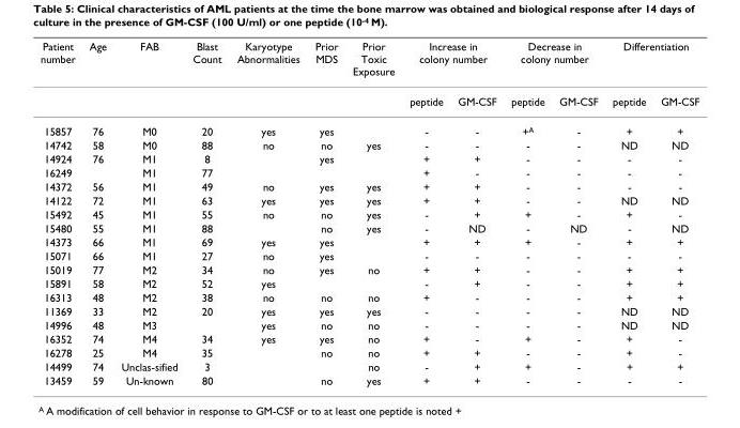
<table><thead><tr><td rowspan="2">Patient number</td><td rowspan="2">Age</td><td rowspan="2">FAB</td><td rowspan="2">Blast Count</td><td rowspan="2">Karyotype Abnormalities</td><td rowspan="2">Prior MDS</td><td rowspan="2">Prior Toxic Exposure</td><td colspan="2">Increase in colony number</td><td colspan="2">Decrease in colony number</td><td colspan="2">Differentiation</td></tr><tr><td>peptide</td><td>GM-CSF</td><td>peptide</td><td>GM-CSF</td><td>peptide</td><td>GM-CSF</td></tr></thead><tbody><tr><td>15857</td><td>76</td><td>M0</td><td>20</td><td>yes</td><td>yes</td><td></td><td>-</td><td>-</td><td>+<sup>A</sup></td><td>-</td><td>+</td><td>+</td></tr><tr><td>14742</td><td>58</td><td>M0</td><td>88</td><td>no</td><td>no</td><td>yes</td><td>-</td><td>-</td><td>-</td><td>-</td><td>ND</td><td>ND</td></tr><tr><td>14924</td><td>76</td><td>M1</td><td>8</td><td></td><td>yes</td><td></td><td>+</td><td>+</td><td>-</td><td>-</td><td>-</td><td>-</td></tr><tr><td>16249</td><td></td><td>M1</td><td>77</td><td></td><td></td><td></td><td>+</td><td>-</td><td>-</td><td>-</td><td>-</td><td>-</td></tr><tr><td>14372</td><td>56</td><td>M1</td><td>49</td><td>no</td><td>yes</td><td>yes</td><td>+</td><td>+</td><td>-</td><td>-</td><td>-</td><td>-</td></tr><tr><td>14122</td><td>72</td><td>M1</td><td>63</td><td>yes</td><td>yes</td><td>yes</td><td>+</td><td>+</td><td>-</td><td>-</td><td>ND</td><td>ND</td></tr><tr><td>15492</td><td>45</td><td>M1</td><td>55</td><td>no</td><td>no</td><td>yes</td><td>-</td><td>+</td><td>+</td><td>-</td><td>+</td><td>-</td></tr><tr><td>15480</td><td>55</td><td>M1</td><td>88</td><td></td><td>no</td><td>yes</td><td>-</td><td>ND</td><td>-</td><td>ND</td><td>-</td><td>ND</td></tr><tr><td>14373</td><td>66</td><td>M1</td><td>69</td><td>yes</td><td>yes</td><td></td><td>+</td><td>+</td><td>+</td><td>-</td><td>+</td><td>+</td></tr><tr><td>15071</td><td>66</td><td>M1</td><td>27</td><td>no</td><td>yes</td><td></td><td>-</td><td>-</td><td>-</td><td>-</td><td>-</td><td>-</td></tr><tr><td>15019</td><td>77</td><td>M2</td><td>34</td><td>no</td><td>yes</td><td>no</td><td>+</td><td>+</td><td>-</td><td>-</td><td>+</td><td>+</td></tr><tr><td>15891</td><td>58</td><td>M2</td><td>52</td><td>yes</td><td></td><td></td><td>-</td><td>+</td><td>-</td><td>-</td><td>+</td><td>+</td></tr><tr><td>16313</td><td>48</td><td>M2</td><td>38</td><td>no</td><td>no</td><td>no</td><td>+</td><td>-</td><td>-</td><td>-</td><td>+</td><td>+</td></tr><tr><td>11369</td><td>33</td><td>M2</td><td>20</td><td>yes</td><td>yes</td><td>yes</td><td>-</td><td>-</td><td>-</td><td>-</td><td>ND</td><td>ND</td></tr><tr><td>14996</td><td>48</td><td>M3</td><td></td><td>yes</td><td>no</td><td>no</td><td>-</td><td>-</td><td>-</td><td>-</td><td>ND</td><td>ND</td></tr><tr><td>16352</td><td>74</td><td>M4</td><td>34</td><td>yes</td><td>yes</td><td>no</td><td>+</td><td>-</td><td>+</td><td>-</td><td>+</td><td>-</td></tr><tr><td>16278</td><td>25</td><td>M4</td><td>35</td><td></td><td>no</td><td>no</td><td>+</td><td>+</td><td>-</td><td>-</td><td>+</td><td>-</td></tr><tr><td>14499</td><td>74</td><td>Unclas-sified</td><td>3</td><td></td><td></td><td>no</td><td>-</td><td>+</td><td>+</td><td>-</td><td>+</td><td>+</td></tr><tr><td>13459</td><td>59</td><td>Un-known</td><td>80</td><td></td><td>no</td><td>yes</td><td>+</td><td>+</td><td>-</td><td>-</td><td>-</td><td>-</td></tr></tbody></table>